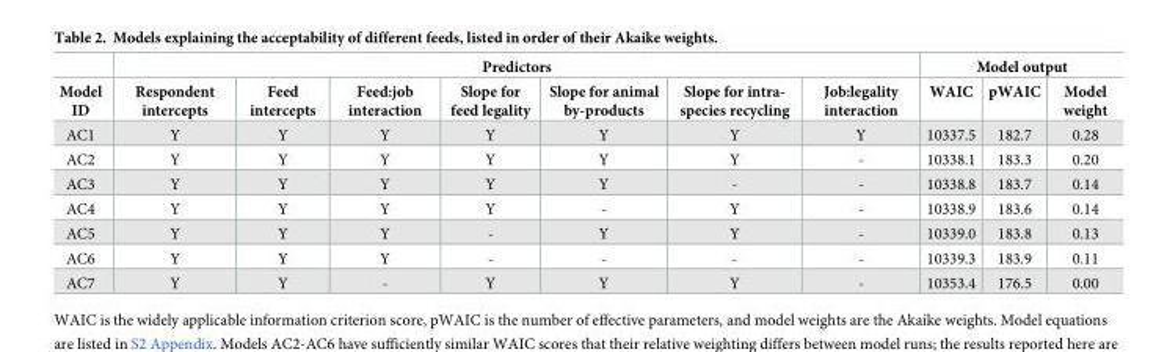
<table><thead><tr><td rowspan="2">Model ID</td><td colspan="7">Predictors</td><td colspan="3">Model output</td></tr><tr><td>Respondent intercepts</td><td>Feed intercepts</td><td>Feed:job interaction</td><td>Slope for feed legality</td><td>Slope for animal by-products</td><td>Slope for intra- species recycling</td><td>Job:legality interaction</td><td>WAIC</td><td>pWAIC</td><td>Model weight</td></tr></thead><tbody><tr><td>AC1</td><td>Y</td><td>Y</td><td>Y</td><td>Y</td><td>Y</td><td>Y</td><td>Y</td><td>10337.5</td><td>182.7</td><td>0.28</td></tr><tr><td>AC2</td><td>Y</td><td>Y</td><td>Y</td><td>Y</td><td>Y</td><td>Y</td><td>-</td><td>10338.1</td><td>183.3</td><td>0.20</td></tr><tr><td>AC3</td><td>Y</td><td>Y</td><td>Y</td><td>Y</td><td>Y</td><td>-</td><td>-</td><td>10338.8</td><td>183.7</td><td>0.14</td></tr><tr><td>AC4</td><td>Y</td><td>Y</td><td>Y</td><td>Y</td><td>-</td><td>Y</td><td>-</td><td>10338.9</td><td>183.6</td><td>0.14</td></tr><tr><td>AC5</td><td>Y</td><td>Y</td><td>Y</td><td>-</td><td>Y</td><td>Y</td><td>-</td><td>10339.0</td><td>183.8</td><td>0.13</td></tr><tr><td>AC6</td><td>Y</td><td>Y</td><td>Y</td><td>-</td><td>-</td><td>-</td><td>-</td><td>10339.3</td><td>183.9</td><td>0.11</td></tr><tr><td>AC7</td><td>Y</td><td>Y</td><td>-</td><td>Y</td><td>Y</td><td>Y</td><td>-</td><td>10353.4</td><td>176.5</td><td>0.00</td></tr></tbody></table>